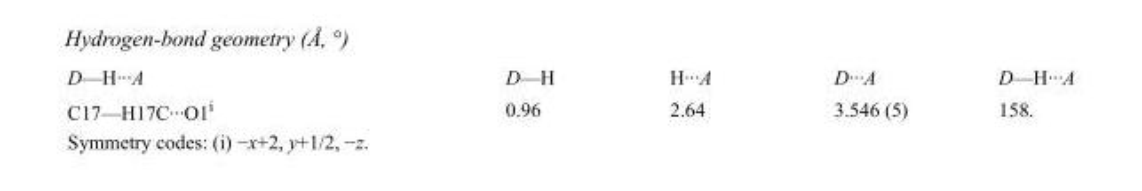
<table><tbody><tr><td>D—H···A</td><td>D—H</td><td>H···A</td><td>D···A</td><td>D—H···A</td></tr><tr><td>C17—H17C···O1<sup>i</sup></td><td>0.96</td><td>2.64</td><td>3.546 (5)</td><td>158.</td></tr></tbody></table>